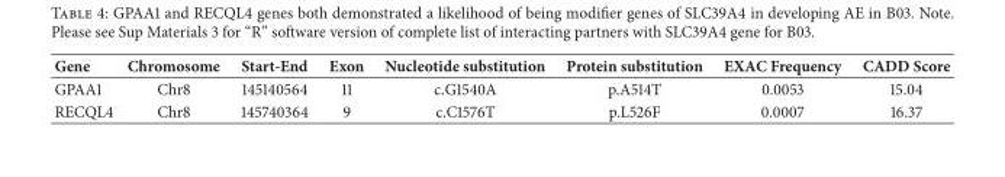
<table><thead><tr><td>Gene</td><td>Chromosome</td><td>Start-End</td><td>Exon</td><td>Nucleotide substitution</td><td>Protein substitution</td><td>EXAC Frequency</td><td>CADD Score</td></tr></thead><tbody><tr><td>GPAA1</td><td>Chr8</td><td>145140564</td><td>11</td><td>c.G1540A</td><td>p.A514T</td><td>0.0053</td><td>15.04</td></tr><tr><td>RECQL4</td><td>Chr8</td><td>145740364</td><td>9</td><td>c.C1576T</td><td>p.L526F</td><td>0.0007</td><td>16.37</td></tr></tbody></table>